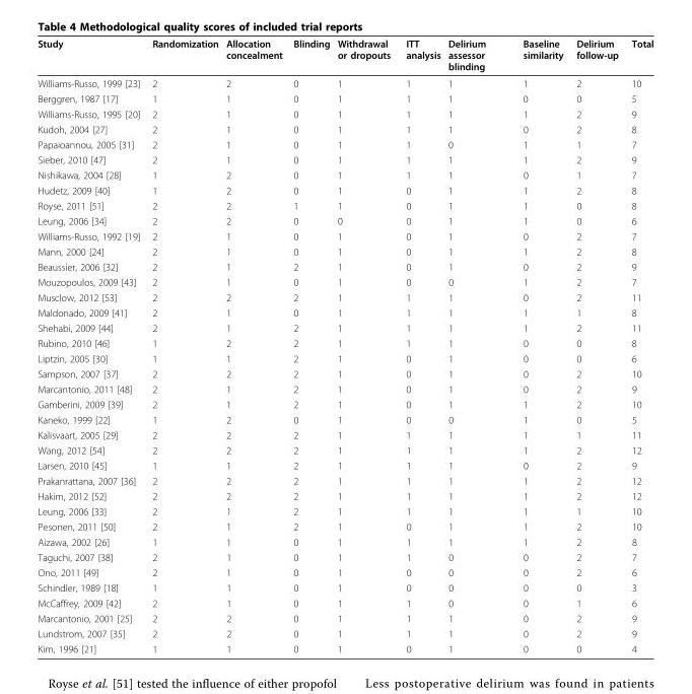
<table><thead><tr><td>Study</td><td>Randomization</td><td>Allocation concealment</td><td>Blinding</td><td>Withdrawal or dropouts</td><td>ITT analysis</td><td>Delirium assessor blinding</td><td>Baseline similarity</td><td>Delirium follow-up</td><td>Total</td></tr></thead><tbody><tr><td>Williams-Russo, 1999 [23]</td><td>2</td><td>2</td><td>0</td><td>1</td><td>1</td><td>1</td><td>1</td><td>2</td><td>10</td></tr><tr><td>Berggren, 1987 [17]</td><td>1</td><td>1</td><td>0</td><td>1</td><td>1</td><td>1</td><td>0</td><td>0</td><td>5</td></tr><tr><td>Williams-Russo, 1995 [20]</td><td>2</td><td>1</td><td>0</td><td>1</td><td>1</td><td>1</td><td>1</td><td>2</td><td>9</td></tr><tr><td>Kudoh, 2004 [27]</td><td>2</td><td>1</td><td>0</td><td>1</td><td>1</td><td>1</td><td>0</td><td>2</td><td>8</td></tr><tr><td>Papaioannou, 2005 [31]</td><td>2</td><td>1</td><td>0</td><td>1</td><td>1</td><td>0</td><td>1</td><td>1</td><td>7</td></tr><tr><td>Sieber, 2010 [47]</td><td>2</td><td>1</td><td>0</td><td>1</td><td>1</td><td>1</td><td>1</td><td>2</td><td>9</td></tr><tr><td>Nishikawa, 2004 [28]</td><td>1</td><td>2</td><td>0</td><td>1</td><td>1</td><td>1</td><td>0</td><td>1</td><td>7</td></tr><tr><td>Hudetz, 2009 [40]</td><td>1</td><td>2</td><td>0</td><td>1</td><td>0</td><td>1</td><td>1</td><td>2</td><td>8</td></tr><tr><td>Royse, 2011 [51]</td><td>2</td><td>2</td><td>1</td><td>1</td><td>0</td><td>1</td><td>1</td><td>0</td><td>8</td></tr><tr><td>Leung, 2006 [34]</td><td>2</td><td>2</td><td>0</td><td>0</td><td>0</td><td>1</td><td>1</td><td>0</td><td>6</td></tr><tr><td>Williams-Russo, 1992 [19]</td><td>2</td><td>1</td><td>0</td><td>1</td><td>0</td><td>1</td><td>0</td><td>2</td><td>7</td></tr><tr><td>Mann, 2000 [24]</td><td>2</td><td>1</td><td>0</td><td>1</td><td>0</td><td>1</td><td>1</td><td>2</td><td>8</td></tr><tr><td>Beaussier, 2006 [32]</td><td>2</td><td>1</td><td>2</td><td>1</td><td>0</td><td>1</td><td>0</td><td>2</td><td>9</td></tr><tr><td>Mouzopoulos, 2009 [43]</td><td>2</td><td>1</td><td>0</td><td>1</td><td>0</td><td>0</td><td>1</td><td>2</td><td>7</td></tr><tr><td>Musclow, 2012 [53]</td><td>2</td><td>2</td><td>2</td><td>1</td><td>1</td><td>1</td><td>0</td><td>2</td><td>11</td></tr><tr><td>Maldonado, 2009 [41]</td><td>2</td><td>1</td><td>0</td><td>1</td><td>1</td><td>1</td><td>1</td><td>1</td><td>8</td></tr><tr><td>Shehabi, 2009 [44]</td><td>2</td><td>1</td><td>2</td><td>1</td><td>1</td><td>1</td><td>1</td><td>2</td><td>11</td></tr><tr><td>Rubino, 2010 [46]</td><td>1</td><td>2</td><td>2</td><td>1</td><td>1</td><td>1</td><td>0</td><td>0</td><td>8</td></tr><tr><td>Liptzin, 2005 [30]</td><td>1</td><td>1</td><td>2</td><td>1</td><td>0</td><td>1</td><td>0</td><td>0</td><td>6</td></tr><tr><td>Sampson, 2007 [37]</td><td>2</td><td>2</td><td>2</td><td>1</td><td>0</td><td>1</td><td>0</td><td>2</td><td>10</td></tr><tr><td>Marcantonio, 2011 [48]</td><td>2</td><td>1</td><td>2</td><td>1</td><td>0</td><td>1</td><td>0</td><td>2</td><td>9</td></tr><tr><td>Gamberini, 2009 [39]</td><td>2</td><td>1</td><td>2</td><td>1</td><td>0</td><td>1</td><td>1</td><td>2</td><td>10</td></tr><tr><td>Kaneko, 1999 [22]</td><td>1</td><td>2</td><td>0</td><td>1</td><td>0</td><td>0</td><td>1</td><td>0</td><td>5</td></tr><tr><td>Kalisvaart, 2005 [29]</td><td>2</td><td>2</td><td>2</td><td>1</td><td>1</td><td>1</td><td>1</td><td>1</td><td>11</td></tr><tr><td>Wang, 2012 [54]</td><td>2</td><td>2</td><td>2</td><td>1</td><td>1</td><td>1</td><td>1</td><td>2</td><td>12</td></tr><tr><td>Larsen, 2010 [45]</td><td>1</td><td>1</td><td>2</td><td>1</td><td>1</td><td>1</td><td>0</td><td>2</td><td>9</td></tr><tr><td>Prakanrattana, 2007 [36]</td><td>2</td><td>2</td><td>2</td><td>1</td><td>1</td><td>1</td><td>1</td><td>2</td><td>12</td></tr><tr><td>Hakim, 2012 [52]</td><td>2</td><td>2</td><td>2</td><td>1</td><td>1</td><td>1</td><td>1</td><td>2</td><td>12</td></tr><tr><td>Leung, 2006 [33]</td><td>2</td><td>1</td><td>2</td><td>1</td><td>1</td><td>1</td><td>1</td><td>1</td><td>10</td></tr><tr><td>Pesonen, 2011 [50]</td><td>2</td><td>1</td><td>2</td><td>1</td><td>0</td><td>1</td><td>1</td><td>2</td><td>10</td></tr><tr><td>Aizawa, 2002 [26]</td><td>1</td><td>1</td><td>0</td><td>1</td><td>1</td><td>1</td><td>1</td><td>2</td><td>8</td></tr><tr><td>Taguchi, 2007 [38]</td><td>2</td><td>1</td><td>0</td><td>1</td><td>1</td><td>0</td><td>0</td><td>2</td><td>7</td></tr><tr><td>Ono, 2011 [49]</td><td>2</td><td>1</td><td>0</td><td>1</td><td>0</td><td>0</td><td>0</td><td>2</td><td>6</td></tr><tr><td>Schindler, 1989 [18]</td><td>1</td><td>1</td><td>0</td><td>1</td><td>0</td><td>0</td><td>0</td><td>0</td><td>3</td></tr><tr><td>McCaffrey, 2009 [42]</td><td>2</td><td>1</td><td>0</td><td>1</td><td>1</td><td>0</td><td>0</td><td>1</td><td>6</td></tr><tr><td>Marcantonio, 2001 [25]</td><td>2</td><td>2</td><td>0</td><td>1</td><td>1</td><td>1</td><td>0</td><td>2</td><td>9</td></tr><tr><td>Lundstrom, 2007 [35]</td><td>2</td><td>2</td><td>0</td><td>1</td><td>1</td><td>1</td><td>0</td><td>2</td><td>9</td></tr><tr><td>Kim, 1996 [21]</td><td>1</td><td>1</td><td>0</td><td>1</td><td>0</td><td>1</td><td>0</td><td>0</td><td>4</td></tr></tbody></table>